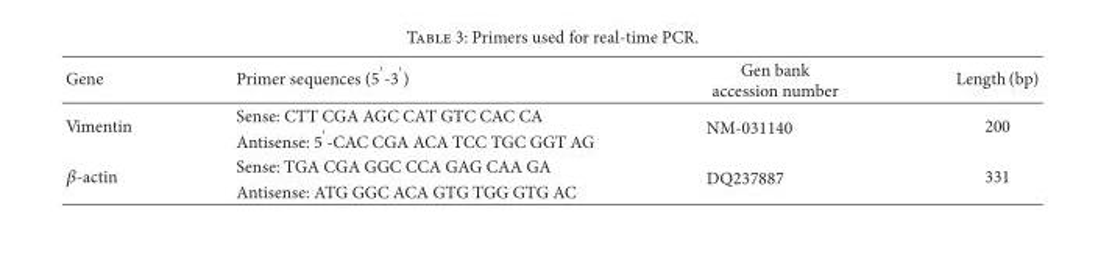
<table><thead><tr><td>Gene</td><td>Primer sequences (5′-3′)</td><td>Gen bank accession number</td><td>Length (bp)</td></tr></thead><tbody><tr><td rowspan="2">Vimentin</td><td>Sense: CTT CGA AGC CAT GTC CAC CA</td><td rowspan="2">NM-031140</td><td rowspan="2">200</td></tr><tr><td>Antisense: 5′-CAC CGA ACA TCC TGC GGT AG</td></tr><tr><td rowspan="2">𝛽𝛽-actin</td><td>Sense: TGA CGA GGC CCA GAG CAA GA</td><td rowspan="2">DQ237887</td><td rowspan="2">331</td></tr><tr><td>Antisense: ATG GGC ACA GTG TGG GTG AC</td></tr></tbody></table>